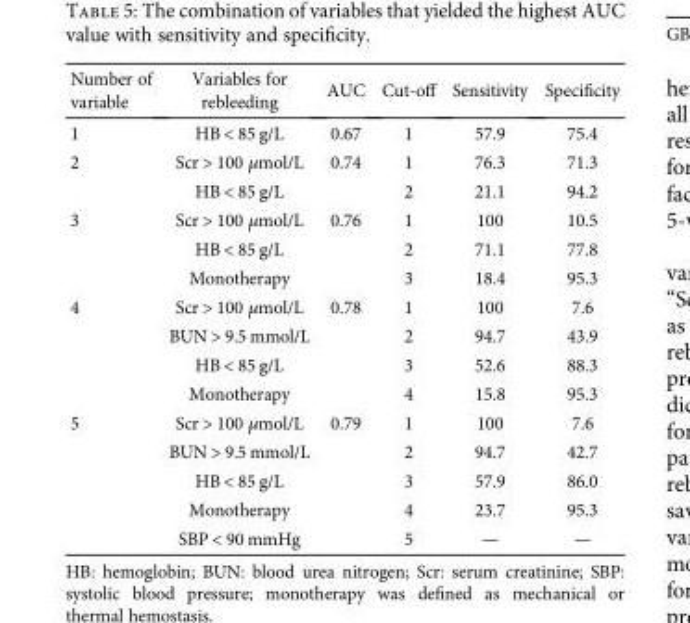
<table><thead><tr><td>Number of variable</td><td>Variables for rebleeding</td><td>AUC</td><td>Cut-off</td><td>Sensitivity</td><td>Specificity</td></tr></thead><tbody><tr><td>1</td><td>HB &lt; 85 g/L</td><td>0.67</td><td>1</td><td>57.9</td><td>75.4</td></tr><tr><td rowspan="2">2</td><td>Scr &gt; 100 μmol/L</td><td>0.74</td><td>1</td><td>76.3</td><td>71.3</td></tr><tr><td>HB &lt; 85 g/L</td><td></td><td>2</td><td>21.1</td><td>94.2</td></tr><tr><td rowspan="3">3</td><td>Scr &gt; 100 μmol/L</td><td>0.76</td><td>1</td><td>100</td><td>10.5</td></tr><tr><td>HB &lt; 85 g/L</td><td></td><td>2</td><td>71.1</td><td>77.8</td></tr><tr><td>Monotherapy</td><td></td><td>3</td><td>18.4</td><td>95.3</td></tr><tr><td rowspan="4">4</td><td>Scr &gt; 100 μmol/L</td><td>0.78</td><td>1</td><td>100</td><td>7.6</td></tr><tr><td>BUN &gt; 9.5 mmol/L</td><td></td><td>2</td><td>94.7</td><td>43.9</td></tr><tr><td>HB &lt; 85 g/L</td><td></td><td>3</td><td>52.6</td><td>88.3</td></tr><tr><td>Monotherapy</td><td></td><td>4</td><td>15.8</td><td>95.3</td></tr><tr><td rowspan="5">5</td><td>Scr &gt; 100 μmol/L</td><td>0.79</td><td>1</td><td>100</td><td>7.6</td></tr><tr><td>BUN &gt; 9.5 mmol/L</td><td></td><td>2</td><td>94.7</td><td>42.7</td></tr><tr><td>HB &lt; 85 g/L</td><td></td><td>3</td><td>57.9</td><td>86.0</td></tr><tr><td>Monotherapy</td><td></td><td>4</td><td>23.7</td><td>95.3</td></tr><tr><td>SBP &lt; 90 mmHg</td><td></td><td>5</td><td>—</td><td>—</td></tr></tbody></table>